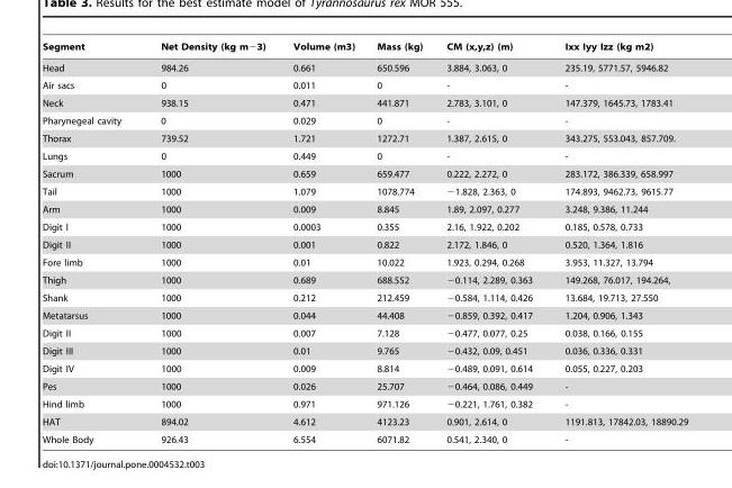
<table><thead><tr><td>Segment</td><td>Net Density (kg m−3)</td><td>Volume (m3)</td><td>Mass (kg)</td><td>CM (x,y,z) (m)</td><td>Ixx Iyy Izz (kg m2)</td></tr></thead><tbody><tr><td>Head</td><td>984.26</td><td>0.661</td><td>650.596</td><td>3.884, 3.063, 0</td><td>235.19, 5771.57, 5946.82</td></tr><tr><td>Air sacs</td><td>0</td><td>0.011</td><td>0</td><td>-</td><td>-</td></tr><tr><td>Neck</td><td>938.15</td><td>0.471</td><td>441.871</td><td>2.783, 3.101, 0</td><td>147.379, 1645.73, 1783.41</td></tr><tr><td>Pharynegeal cavity</td><td>0</td><td>0.029</td><td>0</td><td>-</td><td>-</td></tr><tr><td>Thorax</td><td>739.52</td><td>1.721</td><td>1272.71</td><td>1.387, 2.615, 0</td><td>343.275, 553.043, 857.709.</td></tr><tr><td>Lungs</td><td>0</td><td>0.449</td><td>0</td><td>-</td><td>-</td></tr><tr><td>Sacrum</td><td>1000</td><td>0.659</td><td>659.477</td><td>0.222, 2.272, 0</td><td>283.172, 386.339, 658.997</td></tr><tr><td>Tail</td><td>1000</td><td>1.079</td><td>1078.774</td><td>−1.828, 2.363, 0</td><td>174.893, 9462.73, 9615.77</td></tr><tr><td>Arm</td><td>1000</td><td>0.009</td><td>8.845</td><td>1.89, 2.097, 0.277</td><td>3.248, 9.386, 11.244</td></tr><tr><td>Digit I</td><td>1000</td><td>0.0003</td><td>0.355</td><td>2.16, 1.922, 0.202</td><td>0.185, 0.578, 0.733</td></tr><tr><td>Digit II</td><td>1000</td><td>0.001</td><td>0.822</td><td>2.172, 1.846, 0</td><td>0.520, 1.364, 1.816</td></tr><tr><td>Fore limb</td><td>1000</td><td>0.01</td><td>10.022</td><td>1.923, 0.294, 0.268</td><td>3.953, 11.327, 13.794</td></tr><tr><td>Thigh</td><td>1000</td><td>0.689</td><td>688.552</td><td>−0.114, 2.289, 0.363</td><td>149.268, 76.017, 194.264,</td></tr><tr><td>Shank</td><td>1000</td><td>0.212</td><td>212.459</td><td>−0.584, 1.114, 0.426</td><td>13.684, 19.713, 27.550</td></tr><tr><td>Metatarsus</td><td>1000</td><td>0.044</td><td>44.408</td><td>−0.859, 0.392, 0.417</td><td>1.204, 0.906, 1.343</td></tr><tr><td>Digit II</td><td>1000</td><td>0.007</td><td>7.128</td><td>−0.477, 0.077, 0.25</td><td>0.038, 0.166, 0.155</td></tr><tr><td>Digit III</td><td>1000</td><td>0.01</td><td>9.765</td><td>−0.432, 0.09, 0.451</td><td>0.036, 0.336, 0.331</td></tr><tr><td>Digit IV</td><td>1000</td><td>0.009</td><td>8.814</td><td>−0.489, 0.091, 0.614</td><td>0.055, 0.227, 0.203</td></tr><tr><td>Pes</td><td>1000</td><td>0.026</td><td>25.707</td><td>−0.464, 0.086, 0.449</td><td>-</td></tr><tr><td>Hind limb</td><td>1000</td><td>0.971</td><td>971.126</td><td>−0.221, 1.761, 0.382</td><td>-</td></tr><tr><td>HAT</td><td>894.02</td><td>4.612</td><td>4123.23</td><td>0.901, 2.614, 0</td><td>1191.813, 17842.03, 18890.29</td></tr><tr><td>Whole Body</td><td>926.43</td><td>6.554</td><td>6071.82</td><td>0.541, 2.340, 0</td><td>-</td></tr></tbody></table>